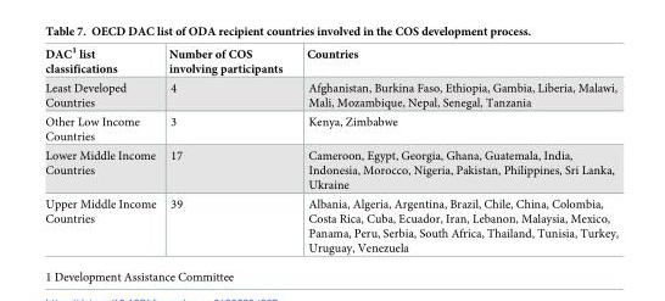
<table><thead><tr><td>DAC<sup>1</sup> list classifications</td><td>Number of COS involving participants</td><td>Countries</td></tr></thead><tbody><tr><td>Least Developed Countries</td><td>4</td><td>Afghanistan, Burkina Faso, Ethiopia, Gambia, Liberia, Malawi, Mali, Mozambique, Nepal, Senegal, Tanzania</td></tr><tr><td>Other Low Income Countries</td><td>3</td><td>Kenya, Zimbabwe</td></tr><tr><td>Lower Middle Income Countries</td><td>17</td><td>Cameroon, Egypt, Georgia, Ghana, Guatemala, India, Indonesia, Morocco, Nigeria, Pakistan, Philippines, Sri Lanka, Ukraine</td></tr><tr><td>Upper Middle Income Countries</td><td>39</td><td>Albania, Algeria, Argentina, Brazil, Chile, China, Colombia, Costa Rica, Cuba, Ecuador, Iran, Lebanon, Malaysia, Mexico, Panama, Peru, Serbia, South Africa, Thailand, Tunisia, Turkey, Uruguay, Venezuela</td></tr></tbody></table>